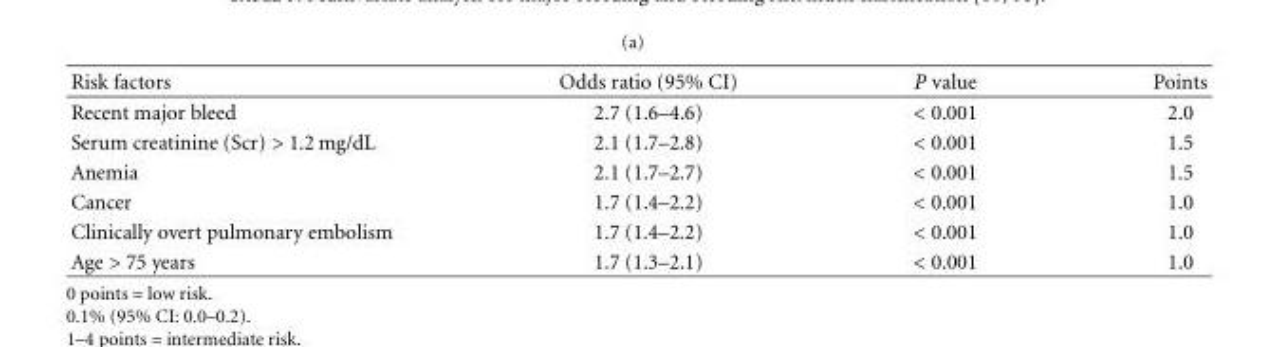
<table><thead><tr><td>Risk factors</td><td>Odds ratio (95% CI)</td><td>P value</td><td>Points</td></tr></thead><tbody><tr><td>Recent major bleed</td><td>2.7 (1.6–4.6)</td><td>&lt; 0.001</td><td>2.0</td></tr><tr><td>Serum creatinine (Scr) &gt; 1.2 mg/dL</td><td>2.1 (1.7–2.8)</td><td>&lt; 0.001</td><td>1.5</td></tr><tr><td>Anemia</td><td>2.1 (1.7–2.7)</td><td>&lt; 0.001</td><td>1.5</td></tr><tr><td>Cancer</td><td>1.7 (1.4–2.2)</td><td>&lt; 0.001</td><td>1.0</td></tr><tr><td>Clinically overt pulmonary embolism</td><td>1.7 (1.4–2.2)</td><td>&lt; 0.001</td><td>1.0</td></tr><tr><td>Age &gt; 75 years</td><td>1.7 (1.3–2.1)</td><td>&lt; 0.001</td><td>1.0</td></tr></tbody></table>